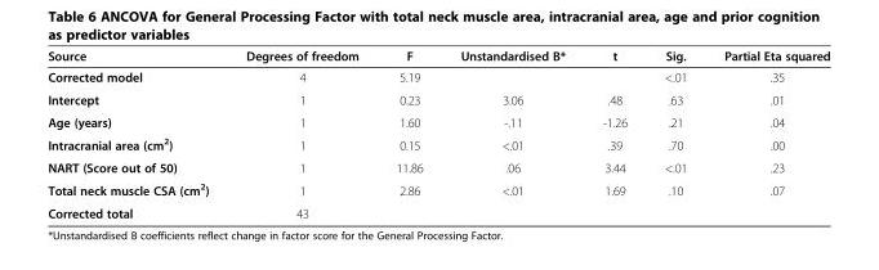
<table><thead><tr><td>Source</td><td>Degrees of freedom</td><td>F</td><td>Unstandardised B*</td><td>t</td><td>Sig.</td><td>Partial Eta squared</td></tr></thead><tbody><tr><td>Corrected model</td><td>4</td><td>5.19</td><td></td><td></td><td>&lt;.01</td><td>.35</td></tr><tr><td>Intercept</td><td>1</td><td>0.23</td><td>3.06</td><td>.48</td><td>.63</td><td>.01</td></tr><tr><td>Age (years)</td><td>1</td><td>1.60</td><td>-.11</td><td>-1.26</td><td>.21</td><td>.04</td></tr><tr><td>Intracranial area (cm<sup>2</sup>)</td><td>1</td><td>0.15</td><td>&lt;.01</td><td>.39</td><td>.70</td><td>.00</td></tr><tr><td>NART (Score out of 50)</td><td>1</td><td>11.86</td><td>.06</td><td>3.44</td><td>&lt;.01</td><td>.23</td></tr><tr><td>Total neck muscle CSA (cm<sup>2</sup>)</td><td>1</td><td>2.86</td><td>&lt;.01</td><td>1.69</td><td>.10</td><td>.07</td></tr><tr><td>Corrected total</td><td>43</td><td></td><td></td><td></td><td></td><td></td></tr></tbody></table>